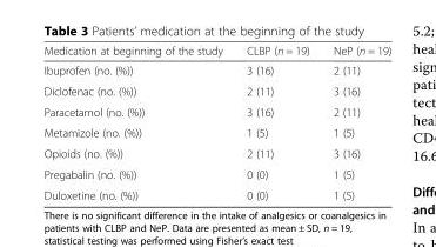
<table><thead><tr><td>Medication at beginning of the study</td><td>CLBP (n = 19)</td><td>NeP (n = 19)</td></tr></thead><tbody><tr><td>Ibuprofen (no. (%))</td><td>3 (16)</td><td>2 (11)</td></tr><tr><td>Diclofenac (no. (%))</td><td>2 (11)</td><td>3 (16)</td></tr><tr><td>Paracetamol (no. (%))</td><td>3 (16)</td><td>2 (11)</td></tr><tr><td>Metamizole (no. (%))</td><td>1 (5)</td><td>1 (5)</td></tr><tr><td>Opioids (no. (%))</td><td>2 (11)</td><td>3 (16)</td></tr><tr><td>Pregabalin (no. (%))</td><td>0 (0)</td><td>1 (5)</td></tr><tr><td>Duloxetine (no. (%))</td><td>0 (0)</td><td>1 (5)</td></tr></tbody></table>